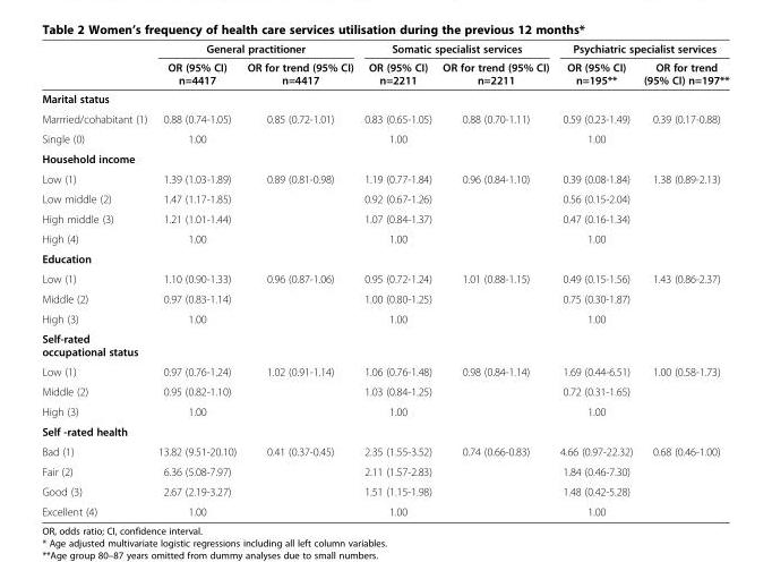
<table><thead><tr><td rowspan="2"></td><td colspan="2">General practitioner</td><td colspan="2">Somatic specialist services</td><td colspan="2">Psychiatric specialist services</td></tr><tr><td>OR (95% CI) n=4417</td><td>OR for trend (95% CI) n=4417</td><td>OR (95% CI) n=2211</td><td>OR for trend (95% CI) n=2211</td><td>OR (95% CI) n=195**</td><td>OR for trend (95% CI) n=197**</td></tr></thead><tbody><tr><td colspan="7">Marital status</td></tr><tr><td>Marrried/cohabitant (1)</td><td>0.88 (0.74-1.05)</td><td>0.85 (0.72-1.01)</td><td>0.83 (0.65-1.05)</td><td>0.88 (0.70-1.11)</td><td>0.59 (0.23-1.49)</td><td>0.39 (0.17-0.88)</td></tr><tr><td>Single (0)</td><td>1.00</td><td></td><td>1.00</td><td></td><td>1.00</td><td></td></tr><tr><td colspan="7">Household income</td></tr><tr><td>Low (1)</td><td>1.39 (1.03-1.89)</td><td>0.89 (0.81-0.98)</td><td>1.19 (0.77-1.84)</td><td>0.96 (0.84-1.10)</td><td>0.39 (0.08-1.84)</td><td>1.38 (0.89-2.13)</td></tr><tr><td>Low middle (2)</td><td>1.47 (1.17-1.85)</td><td></td><td>0.92 (0.67-1.26)</td><td></td><td>0.56 (0.15-2.04)</td><td></td></tr><tr><td>High middle (3)</td><td>1.21 (1.01-1.44)</td><td></td><td>1.07 (0.84-1.37)</td><td></td><td>0.47 (0.16-1.34)</td><td></td></tr><tr><td>High (4)</td><td>1.00</td><td></td><td>1.00</td><td></td><td>1.00</td><td></td></tr><tr><td colspan="7">Education</td></tr><tr><td>Low (1)</td><td>1.10 (0.90-1.33)</td><td>0.96 (0.87-1.06)</td><td>0.95 (0.72-1.24)</td><td>1.01 (0.88-1.15)</td><td>0.49 (0.15-1.56)</td><td>1.43 (0.86-2.37)</td></tr><tr><td>Middle (2)</td><td>0.97 (0.83-1.14)</td><td></td><td>1.00 (0.80-1.25)</td><td></td><td>0.75 (0.30-1.87)</td><td></td></tr><tr><td>High (3)</td><td>1.00</td><td></td><td>1.00</td><td></td><td>1.00</td><td></td></tr><tr><td colspan="7">Self-rated occupational status</td></tr><tr><td>Low (1)</td><td>0.97 (0.76-1.24)</td><td>1.02 (0.91-1.14)</td><td>1.06 (0.76-1.48)</td><td>0.98 (0.84-1.14)</td><td>1.69 (0.44-6.51)</td><td>1.00 (0.58-1.73)</td></tr><tr><td>Middle (2)</td><td>0.95 (0.82-1.10)</td><td></td><td>1.03 (0.84-1.25)</td><td></td><td>0.72 (0.31-1.65)</td><td></td></tr><tr><td>High (3)</td><td>1.00</td><td></td><td>1.00</td><td></td><td>1.00</td><td></td></tr><tr><td colspan="7">Self -rated health</td></tr><tr><td>Bad (1)</td><td>13.82 (9.51-20.10)</td><td>0.41 (0.37-0.45)</td><td>2.35 (1.55-3.52)</td><td>0.74 (0.66-0.83)</td><td>4.66 (0.97-22.32)</td><td>0.68 (0.46-1.00)</td></tr><tr><td>Fair (2)</td><td>6.36 (5.08-7.97)</td><td></td><td>2.11 (1.57-2.83)</td><td></td><td>1.84 (0.46-7.30)</td><td></td></tr><tr><td>Good (3)</td><td>2.67 (2.19-3.27)</td><td></td><td>1.51 (1.15-1.98)</td><td></td><td>1.48 (0.42-5.28)</td><td></td></tr><tr><td>Excellent (4)</td><td>1.00</td><td></td><td>1.00</td><td></td><td>1.00</td><td></td></tr></tbody></table>